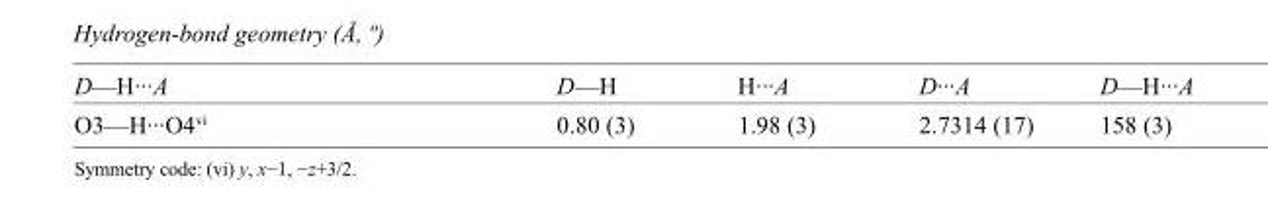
<table><tbody><tr><td>D—H···A</td><td>D—H</td><td>H···A</td><td>D···A</td><td>D—H···A</td></tr><tr><td>O3—H···O4<sup>vi</sup></td><td>0.80 (3)</td><td>1.98 (3)</td><td>2.7314 (17)</td><td>158 (3)</td></tr></tbody></table>